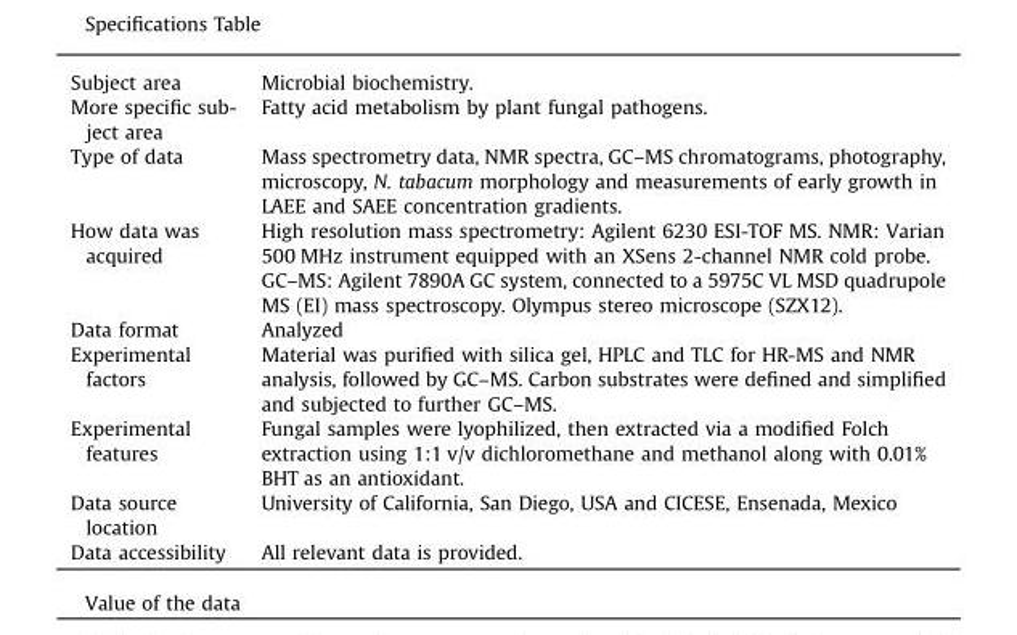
<table><tbody><tr><td>Subject area</td><td>Microbial biochemistry.</td></tr><tr><td>More specific sub- ject area</td><td>Fatty acid metabolism by plant fungal pathogens.</td></tr><tr><td>Type of data</td><td>Mass spectrometry data, NMR spectra, GC–MS chromatograms, photography, microscopy, N. tabacum morphology and measurements of early growth in LAEE and SAEE concentration gradients.</td></tr><tr><td>How data was acquired</td><td>High resolution mass spectrometry: Agilent 6230 ESI-TOF MS. NMR: Varian 500 MHz instrument equipped with an XSens 2-channel NMR cold probe. GC–MS: Agilent 7890A GC system, connected to a 5975C VL MSD quadrupole MS (EI) mass spectroscopy. Olympus stereo microscope (SZX12).</td></tr><tr><td>Data format</td><td>Analyzed</td></tr><tr><td>Experimental factors</td><td>Material was purified with silica gel, HPLC and TLC for HR-MS and NMR analysis, followed by GC–MS. Carbon substrates were defined and simplified and subjected to further GC–MS.</td></tr><tr><td>Experimental features</td><td>Fungal samples were lyophilized, then extracted via a modified Folch extraction using 1:1 v/v dichloromethane and methanol along with 0.01% BHT as an antioxidant.</td></tr><tr><td>Data source location</td><td>University of California, San Diego, USA and CICESE, Ensenada, Mexico</td></tr><tr><td>Data accessibility</td><td>All relevant data is provided.</td></tr></tbody></table>